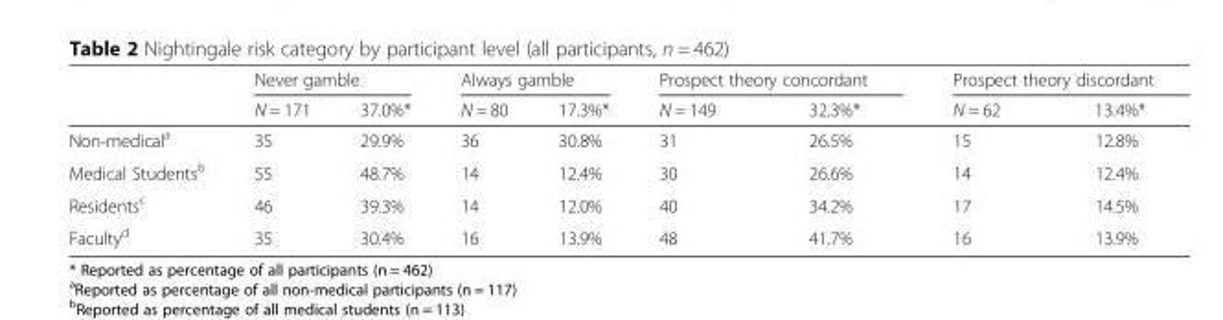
<table><thead><tr><td rowspan="2"></td><td colspan="2">Never gamble</td><td colspan="2">Always gamble</td><td colspan="2">Prospect theory concordant</td><td colspan="2">Prospect theory discordant</td></tr><tr><td>N = 171</td><td>37.0%*</td><td>N = 80</td><td>17.3%*</td><td>N = 149</td><td>32.3%*</td><td>N = 62</td><td>13.4%*</td></tr></thead><tbody><tr><td>Non-medical<sup>a</sup></td><td>35</td><td>29.9%</td><td>36</td><td>30.8%</td><td>31</td><td>26.5%</td><td>15</td><td>12.8%</td></tr><tr><td>Medical Students<sup>b</sup></td><td>55</td><td>48.7%</td><td>14</td><td>12.4%</td><td>30</td><td>26.6%</td><td>14</td><td>12.4%</td></tr><tr><td>Residents<sup>c</sup></td><td>46</td><td>39.3%</td><td>14</td><td>12.0%</td><td>40</td><td>34.2%</td><td>17</td><td>14.5%</td></tr><tr><td>Faculty<sup>d</sup></td><td>35</td><td>30.4%</td><td>16</td><td>13.9%</td><td>48</td><td>41.7%</td><td>16</td><td>13.9%</td></tr></tbody></table>